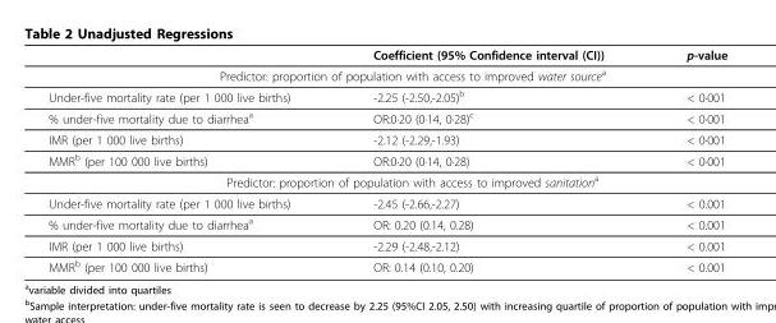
<table><thead><tr><td></td><td>Coefficient (95% Confidence interval (CI))</td><td>p-value</td></tr></thead><tbody><tr><td colspan="3">Predictor: proportion of population with access to improved water source<sup>a</sup></td></tr><tr><td>Under-five mortality rate (per 1 000 live births)</td><td>-2.25 (-2.50,-2.05)<sup>b</sup></td><td>&lt; 0·001</td></tr><tr><td>% under-five mortality due to diarrhea<sup>a</sup></td><td>OR:0·20 (0·14, 0·28)<sup>c</sup></td><td>&lt; 0·001</td></tr><tr><td>IMR (per 1 000 live births)</td><td>-2.12 (-2.29,-1.93)</td><td>&lt; 0·001</td></tr><tr><td>MMR<sup>b</sup> (per 100 000 live births)</td><td>OR:0·20 (0·14, 0·28)</td><td>&lt; 0·001</td></tr><tr><td colspan="3">Predictor: proportion of population with access to improved sanitation<sup>a</sup></td></tr><tr><td>Under-five mortality rate (per 1 000 live births)</td><td>-2.45 (-2.66,-2.27)</td><td>&lt; 0.001</td></tr><tr><td>% under-five mortality due to diarrhea<sup>a</sup></td><td>OR: 0.20 (0.14, 0.28)</td><td>&lt; 0.001</td></tr><tr><td>IMR (per 1 000 live births)</td><td>-2.29 (-2.48,-2.12)</td><td>&lt; 0.001</td></tr><tr><td>MMR<sup>b</sup> (per 100 000 live births)</td><td>OR: 0.14 (0.10, 0.20)</td><td>&lt; 0.001</td></tr></tbody></table>